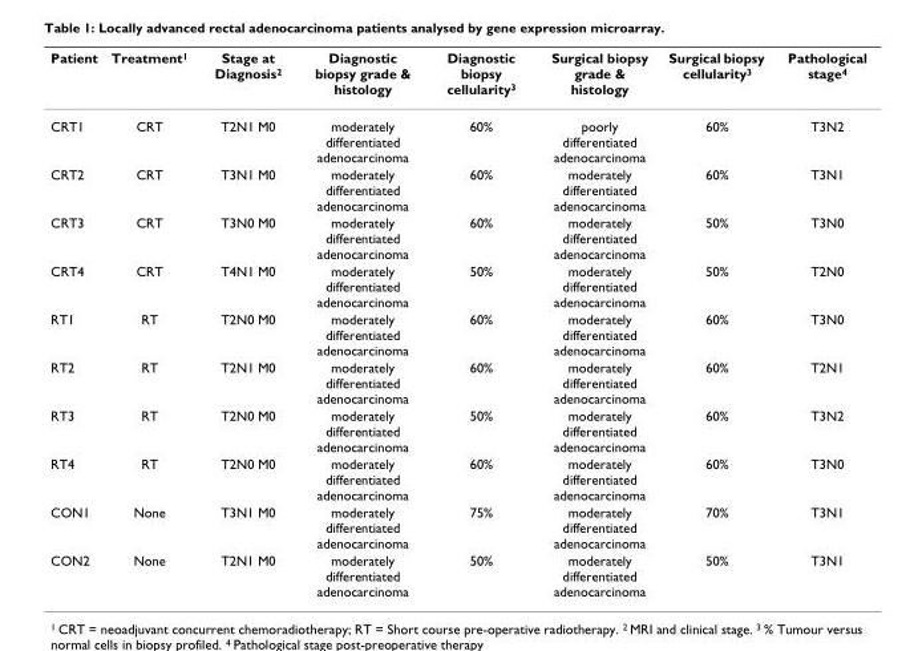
<table><thead><tr><td>Patient</td><td>Treatment<sup>1</sup></td><td>Stage at Diagnosis<sup>2</sup></td><td>Diagnostic biopsy grade &amp; histology</td><td>Diagnostic biopsy cellularity<sup>3</sup></td><td>Surgical biopsy grade &amp; histology</td><td>Surgical biopsy cellularity<sup>3</sup></td><td>Pathological stage<sup>4</sup></td></tr></thead><tbody><tr><td>CRT1</td><td>CRT</td><td>T2N1 M0</td><td>moderately differentiated adenocarcinoma</td><td>60%</td><td>poorly differentiated adenocarcinoma</td><td>60%</td><td>T3N2</td></tr><tr><td>CRT2</td><td>CRT</td><td>T3N1 M0</td><td>moderately differentiated adenocarcinoma</td><td>60%</td><td>moderately differentiated adenocarcinoma</td><td>60%</td><td>T3N1</td></tr><tr><td>CRT3</td><td>CRT</td><td>T3N0 M0</td><td>moderately differentiated adenocarcinoma</td><td>60%</td><td>moderately differentiated adenocarcinoma</td><td>50%</td><td>T3N0</td></tr><tr><td>CRT4</td><td>CRT</td><td>T4N1 M0</td><td>moderately differentiated adenocarcinoma</td><td>50%</td><td>moderately differentiated adenocarcinoma</td><td>50%</td><td>T2N0</td></tr><tr><td>RT1</td><td>RT</td><td>T2N0 M0</td><td>moderately differentiated adenocarcinoma</td><td>60%</td><td>moderately differentiated adenocarcinoma</td><td>60%</td><td>T3N0</td></tr><tr><td>RT2</td><td>RT</td><td>T2N1 M0</td><td>moderately differentiated adenocarcinoma</td><td>60%</td><td>moderately differentiated adenocarcinoma</td><td>60%</td><td>T2N1</td></tr><tr><td>RT3</td><td>RT</td><td>T2N0 M0</td><td>moderately differentiated adenocarcinoma</td><td>50%</td><td>moderately differentiated adenocarcinoma</td><td>60%</td><td>T3N2</td></tr><tr><td>RT4</td><td>RT</td><td>T2N0 M0</td><td>moderately differentiated adenocarcinoma</td><td>60%</td><td>moderately differentiated adenocarcinoma</td><td>60%</td><td>T3N0</td></tr><tr><td>CON1</td><td>None</td><td>T3N1 M0</td><td>moderately differentiated adenocarcinoma</td><td>75%</td><td>moderately differentiated adenocarcinoma</td><td>70%</td><td>T3N1</td></tr><tr><td>CON2</td><td>None</td><td>T2N1 M0</td><td>moderately differentiated adenocarcinoma</td><td>50%</td><td>moderately differentiated adenocarcinoma</td><td>50%</td><td>T3N1</td></tr></tbody></table>